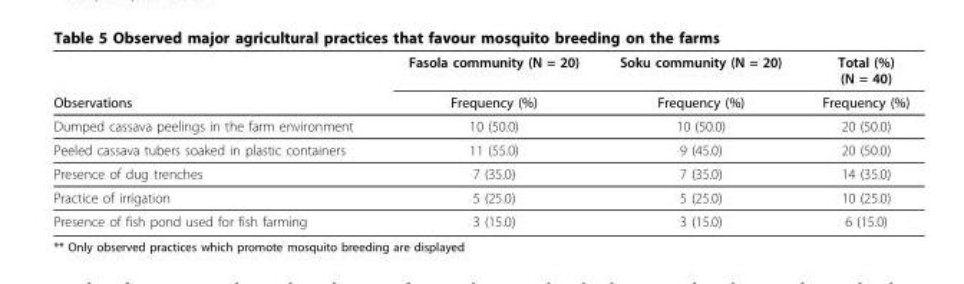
<table><thead><tr><td rowspan="2">Observations</td><td rowspan="2">Fasola community (N = 20) Frequency (%)</td><td rowspan="2">Soku community (N = 20) Frequency (%)</td><td rowspan="2">Total (%) (N = 40) Frequency (%)</td></tr><tr></tr></thead><tbody><tr><td>Dumped cassava peelings in the farm environment</td><td>10 (50.0)</td><td>10 (50.0)</td><td>20 (50.0)</td></tr><tr><td>Peeled cassava tubers soaked in plastic containers</td><td>11 (55.0)</td><td>9 (45.0)</td><td>20 (50.0)</td></tr><tr><td>Presence of dug trenches</td><td>7 (35.0)</td><td>7 (35.0)</td><td>14 (35.0)</td></tr><tr><td>Practice of irrigation</td><td>5 (25.0)</td><td>5 (25.0)</td><td>10 (25.0)</td></tr><tr><td>Presence of fish pond used for fish farming</td><td>3 (15.0)</td><td>3 (15.0)</td><td>6 (15.0)</td></tr></tbody></table>